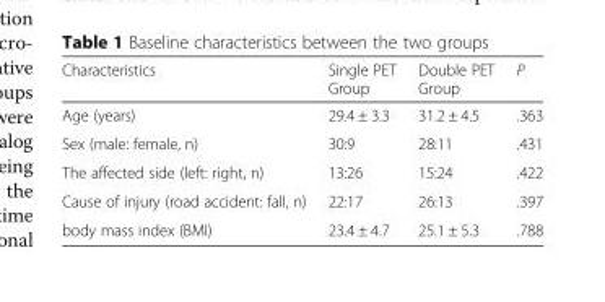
<table><thead><tr><td>Characteristics</td><td>Single PET Group</td><td>Double PET Group</td><td>P</td></tr></thead><tbody><tr><td>Age (years)</td><td>29.4 ± 3.3</td><td>31.2 ± 4.5</td><td>.363</td></tr><tr><td>Sex (male: female, n)</td><td>30:9</td><td>28:11</td><td>.431</td></tr><tr><td>The affected side (left: right, n)</td><td>13:26</td><td>15:24</td><td>.422</td></tr><tr><td>Cause of injury (road accident: fall, n)</td><td>22:17</td><td>26:13</td><td>.397</td></tr><tr><td>body mass index (BMI)</td><td>23.4 ± 4.7</td><td>25.1 ± 5.3</td><td>.788</td></tr></tbody></table>